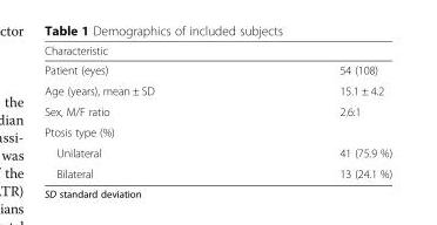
<table><thead><tr><td colspan="2">Characteristic</td></tr><tr><td>Patient (eyes)</td><td>54 (108)</td></tr></thead><tbody><tr><td>Age (years), mean ± SD</td><td>15.1 ± 4.2</td></tr><tr><td>Sex, M/F ratio</td><td>2.6:1</td></tr><tr><td colspan="2">Ptosis type (%)</td></tr><tr><td>Unilateral</td><td>41 (75.9 %)</td></tr><tr><td>Bilateral</td><td>13 (24.1 %)</td></tr></tbody></table>